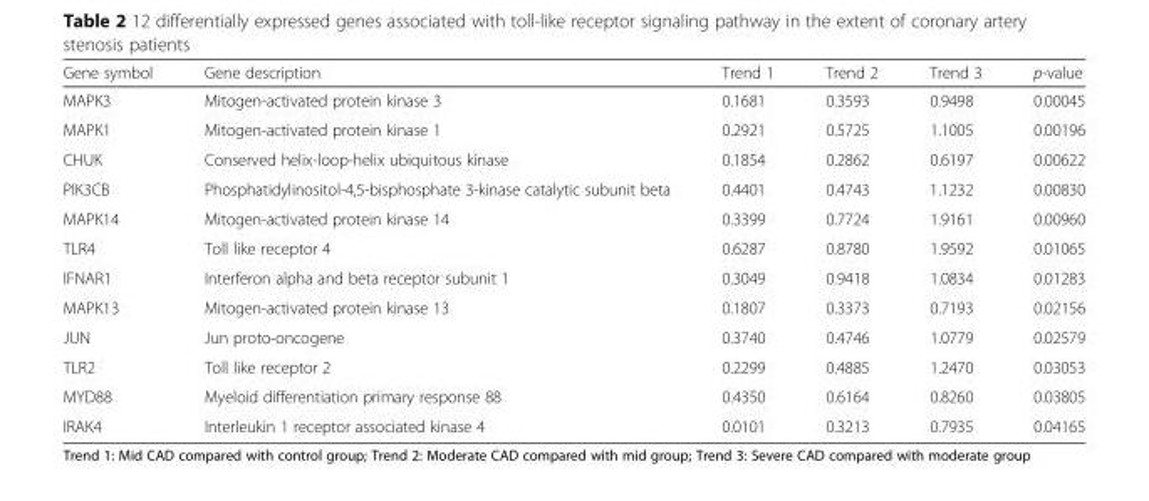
<table><thead><tr><td>Gene symbol</td><td>Gene description</td><td>Trend 1</td><td>Trend 2</td><td>Trend 3</td><td>p-value</td></tr></thead><tbody><tr><td>MAPK3</td><td>Mitogen-activated protein kinase 3</td><td>0.1681</td><td>0.3593</td><td>0.9498</td><td>0.00045</td></tr><tr><td>MAPK1</td><td>Mitogen-activated protein kinase 1</td><td>0.2921</td><td>0.5725</td><td>1.1005</td><td>0.00196</td></tr><tr><td>CHUK</td><td>Conserved helix-loop-helix ubiquitous kinase</td><td>0.1854</td><td>0.2862</td><td>0.6197</td><td>0.00622</td></tr><tr><td>PIK3CB</td><td>Phosphatidylinositol-4,5-bisphosphate 3-kinase catalytic subunit beta</td><td>0.4401</td><td>0.4743</td><td>1.1232</td><td>0.00830</td></tr><tr><td>MAPK14</td><td>Mitogen-activated protein kinase 14</td><td>0.3399</td><td>0.7724</td><td>1.9161</td><td>0.00960</td></tr><tr><td>TLR4</td><td>Toll like receptor 4</td><td>0.6287</td><td>0.8780</td><td>1.9592</td><td>0.01065</td></tr><tr><td>IFNAR1</td><td>Interferon alpha and beta receptor subunit 1</td><td>0.3049</td><td>0.9418</td><td>1.0834</td><td>0.01283</td></tr><tr><td>MAPK13</td><td>Mitogen-activated protein kinase 13</td><td>0.1807</td><td>0.3373</td><td>0.7193</td><td>0.02156</td></tr><tr><td>JUN</td><td>Jun proto-oncogene</td><td>0.3740</td><td>0.4746</td><td>1.0779</td><td>0.02579</td></tr><tr><td>TLR2</td><td>Toll like receptor 2</td><td>0.2299</td><td>0.4885</td><td>1.2470</td><td>0.03053</td></tr><tr><td>MYD88</td><td>Myeloid differentiation primary response 88</td><td>0.4350</td><td>0.6164</td><td>0.8260</td><td>0.03805</td></tr><tr><td>IRAK4</td><td>Interleukin 1 receptor associated kinase 4</td><td>0.0101</td><td>0.3213</td><td>0.7935</td><td>0.04165</td></tr></tbody></table>